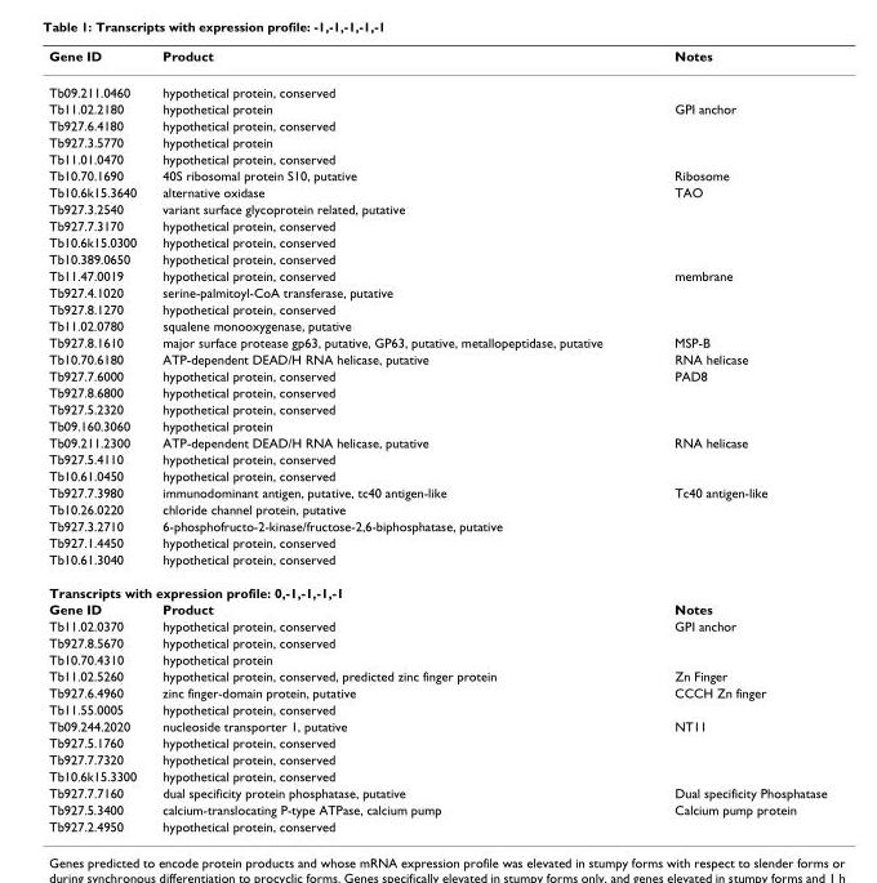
<table><thead><tr><td>Gene ID</td><td>Product</td><td>Notes</td></tr></thead><tbody><tr><td>Tb09.211.0460</td><td>hypothetical protein, conserved</td><td></td></tr><tr><td>Tb11.02.2180</td><td>hypothetical protein</td><td>GPI anchor</td></tr><tr><td>Tb927.6.4180</td><td>hypothetical protein, conserved</td><td></td></tr><tr><td>Tb927.3.5770</td><td>hypothetical protein</td><td></td></tr><tr><td>Tb11.01.0470</td><td>hypothetical protein, conserved</td><td></td></tr><tr><td>Tb10.70.1690</td><td>40S ribosomal protein S10, putative</td><td>Ribosome</td></tr><tr><td>Tb10.6k15.3640</td><td>alternative oxidase</td><td>TAO</td></tr><tr><td>Tb927.3.2540</td><td>variant surface glycoprotein related, putative</td><td></td></tr><tr><td>Tb927.7.3170</td><td>hypothetical protein, conserved</td><td></td></tr><tr><td>Tb10.6k15.0300</td><td>hypothetical protein, conserved</td><td></td></tr><tr><td>Tb10.389.0650</td><td>hypothetical protein, conserved</td><td></td></tr><tr><td>Tb11.47.0019</td><td>hypothetical protein, conserved</td><td>membrane</td></tr><tr><td>Tb927.4.1020</td><td>serine-palmitoyl-CoA transferase, putative</td><td></td></tr><tr><td>Tb927.8.1270</td><td>hypothetical protein, conserved</td><td></td></tr><tr><td>Tb11.02.0780</td><td>squalene monooxygenase, putative</td><td></td></tr><tr><td>Tb927.8.1610</td><td>major surface protease gp63, putative, GP63, putative, metallopeptidase, putative</td><td>MSP-B</td></tr><tr><td>Tb10.70.6180</td><td>ATP-dependent DEAD/H RNA helicase, putative</td><td>RNA helicase</td></tr><tr><td>Tb927.7.6000</td><td>hypothetical protein, conserved</td><td>PAD8</td></tr><tr><td>Tb927.8.6800</td><td>hypothetical protein, conserved</td><td></td></tr><tr><td>Tb927.5.2320</td><td>hypothetical protein, conserved</td><td></td></tr><tr><td>Tb09.160.3060</td><td>hypothetical protein</td><td></td></tr><tr><td>Tb09.211.2300</td><td>ATP-dependent DEAD/H RNA helicase, putative</td><td>RNA helicase</td></tr><tr><td>Tb927.5.4110</td><td>hypothetical protein, conserved</td><td></td></tr><tr><td>Tb10.61.0450</td><td>hypothetical protein, conserved</td><td></td></tr><tr><td>Tb927.7.3980</td><td>immunodominant antigen, putative, tc40 antigen-like</td><td>Tc40 antigen-like</td></tr><tr><td>Tb10.26.0220</td><td>chloride channel protein, putative</td><td></td></tr><tr><td>Tb927.3.2710</td><td>6-phosphofructo-2-kinase/fructose-2,6-biphosphatase, putative</td><td></td></tr><tr><td>Tb927.1.4450</td><td>hypothetical protein, conserved</td><td></td></tr><tr><td>Tb10.61.3040</td><td>hypothetical protein, conserved</td><td></td></tr><tr><td colspan="3">Transcripts with expression profile: 0,-1,-1,-1,-1</td></tr><tr><td>Gene ID</td><td>Product</td><td>Notes</td></tr><tr><td>Tb11.02.0370</td><td>hypothetical protein, conserved</td><td>GPI anchor</td></tr><tr><td>Tb927.8.5670</td><td>hypothetical protein, conserved</td><td></td></tr><tr><td>Tb10.70.4310</td><td>hypothetical protein</td><td></td></tr><tr><td>Tb11.02.5260</td><td>hypothetical protein, conserved, predicted zinc finger protein</td><td>Zn Finger</td></tr><tr><td>Tb927.6.4960</td><td>zinc finger-domain protein, putative</td><td>CCCH Zn finger</td></tr><tr><td>Tb11.55.0005</td><td>hypothetical protein, conserved</td><td></td></tr><tr><td>Tb09.244.2020</td><td>nucleoside transporter 1, putative</td><td>NT11</td></tr><tr><td>Tb927.5.1760</td><td>hypothetical protein, conserved</td><td></td></tr><tr><td>Tb927.7.7320</td><td>hypothetical protein, conserved</td><td></td></tr><tr><td>Tb10.6k15.3300</td><td>hypothetical protein, conserved</td><td></td></tr><tr><td>Tb927.7.7160</td><td>dual specificity protein phosphatase, putative</td><td>Dual specificity Phosphatase</td></tr><tr><td>Tb927.5.3400</td><td>calcium-translocating P-type ATPase, calcium pump</td><td>Calcium pump protein</td></tr><tr><td>Tb927.2.4950</td><td>hypothetical protein, conserved</td><td></td></tr></tbody></table>